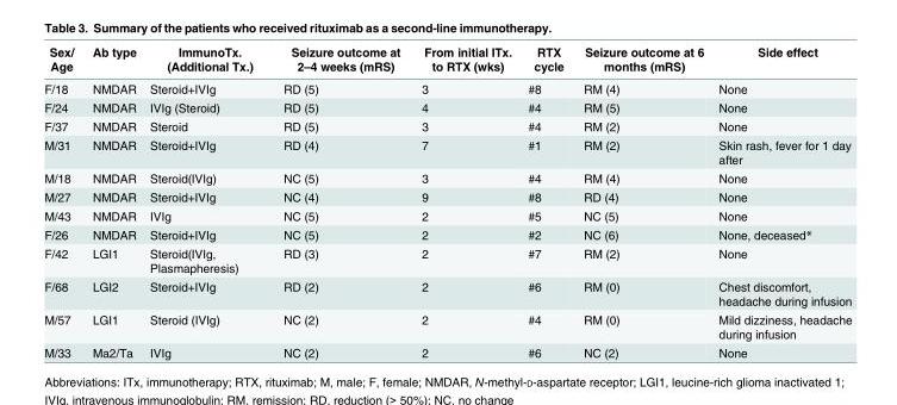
<table><thead><tr><td>Sex/ Age</td><td>Ab type</td><td>ImmunoTx. (Additional Tx.)</td><td>Seizure outcome at 2–4 weeks (mRS)</td><td>From initial ITx. to RTX (wks)</td><td>RTX cycle</td><td>Seizure outcome at 6 months (mRS)</td><td>Side effect</td></tr></thead><tbody><tr><td>F/18</td><td>NMDAR</td><td>Steroid+IVIg</td><td>RD (5)</td><td>3</td><td>#8</td><td>RM (4)</td><td>None</td></tr><tr><td>F/24</td><td>NMDAR</td><td>IVIg (Steroid)</td><td>RD (5)</td><td>4</td><td>#4</td><td>RM (5)</td><td>None</td></tr><tr><td>F/37</td><td>NMDAR</td><td>Steroid</td><td>RD (5)</td><td>3</td><td>#4</td><td>RM (2)</td><td>None</td></tr><tr><td>M/31</td><td>NMDAR</td><td>Steroid+IVIg</td><td>RD (4)</td><td>7</td><td>#1</td><td>RM (2)</td><td>Skin rash, fever for 1 day after</td></tr><tr><td>M/18</td><td>NMDAR</td><td>Steroid(IVIg)</td><td>NC (5)</td><td>3</td><td>#4</td><td>RM (4)</td><td>None</td></tr><tr><td>M/27</td><td>NMDAR</td><td>Steroid+IVIg</td><td>NC (4)</td><td>9</td><td>#8</td><td>RD (4)</td><td>None</td></tr><tr><td>M/43</td><td>NMDAR</td><td>IVIg</td><td>NC (5)</td><td>2</td><td>#5</td><td>NC (5)</td><td>None</td></tr><tr><td>F/26</td><td>NMDAR</td><td>Steroid+IVIg</td><td>NC (5)</td><td>2</td><td>#2</td><td>NC (6)</td><td>None, deceased*</td></tr><tr><td>F/42</td><td>LGI1</td><td>Steroid(IVIg, Plasmapheresis)</td><td>RD (3)</td><td>2</td><td>#7</td><td>RM (2)</td><td>None</td></tr><tr><td>F/68</td><td>LGI2</td><td>Steroid+IVIg</td><td>RD (2)</td><td>2</td><td>#6</td><td>RM (0)</td><td>Chest discomfort, headache during infusion</td></tr><tr><td>M/57</td><td>LGI1</td><td>Steroid (IVIg)</td><td>NC (2)</td><td>2</td><td>#4</td><td>RM (0)</td><td>Mild dizziness, headache during infusion</td></tr><tr><td>M/33</td><td>Ma2/Ta</td><td>IVIg</td><td>NC (2)</td><td>2</td><td>#6</td><td>NC (2)</td><td>None</td></tr></tbody></table>